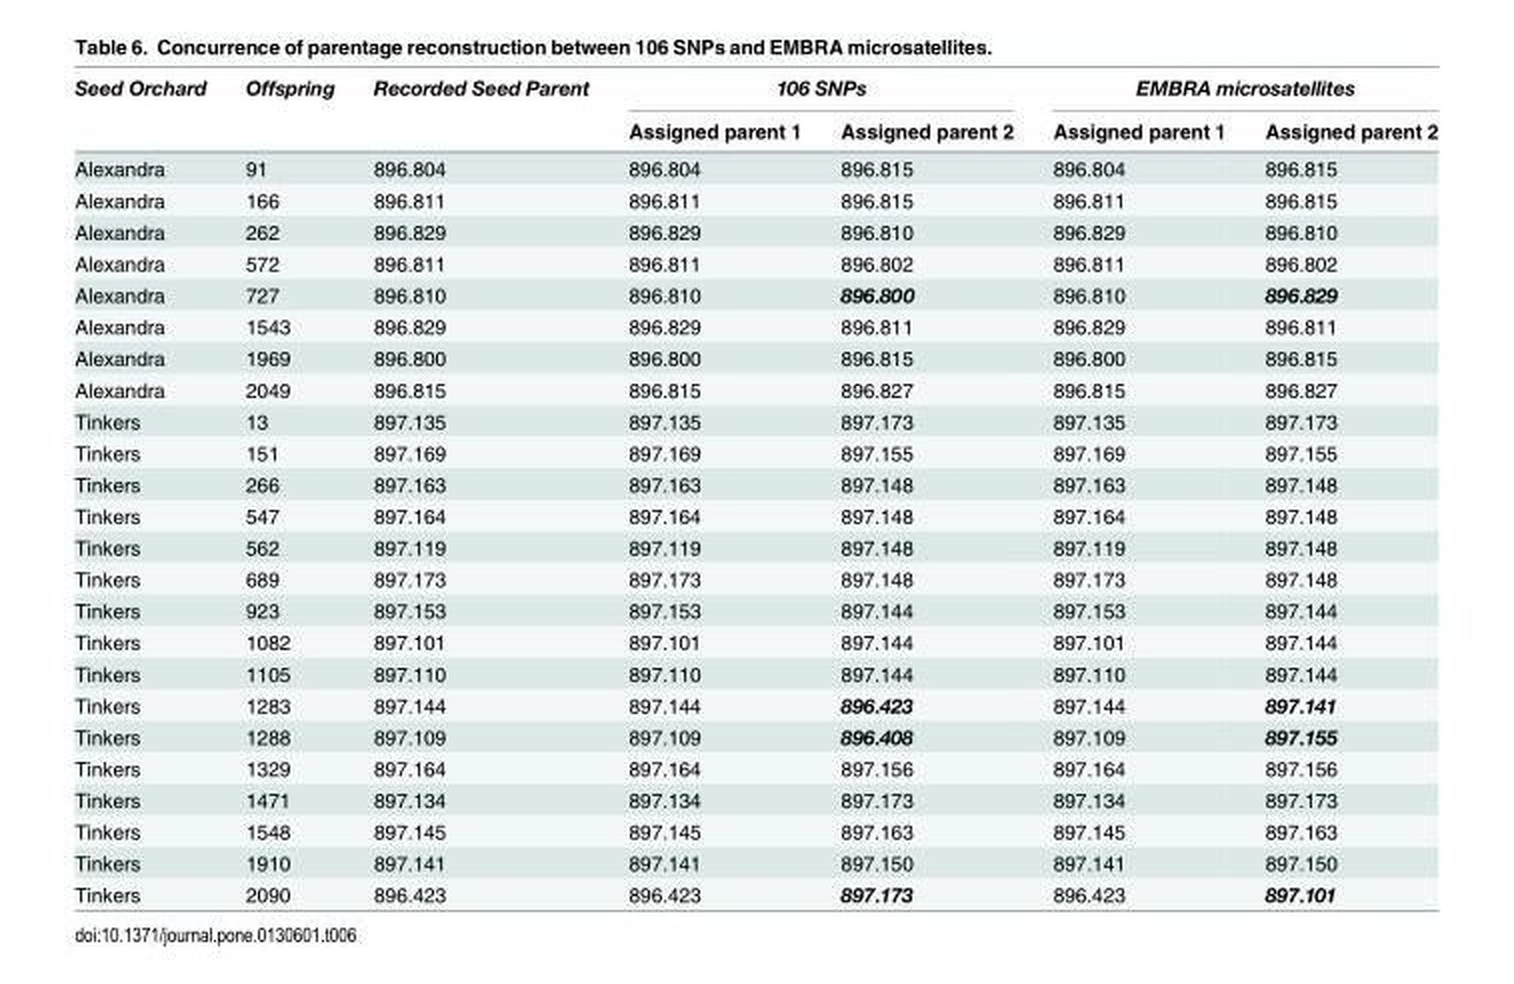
<table><thead><tr><td rowspan="2">Seed Orchard</td><td rowspan="2">Offspring</td><td rowspan="2">Recorded Seed Parent</td><td colspan="2">106 SNPs</td><td colspan="2">EMBRA microsatellites</td></tr><tr><td>Assigned parent 1</td><td>Assigned parent 2</td><td>Assigned parent 1</td><td>Assigned parent 2</td></tr></thead><tbody><tr><td>Alexandra</td><td>91</td><td>896.804</td><td>896.804</td><td>896.815</td><td>896.804</td><td>896.815</td></tr><tr><td>Alexandra</td><td>166</td><td>896.811</td><td>896.811</td><td>896.815</td><td>896.811</td><td>896.815</td></tr><tr><td>Alexandra</td><td>262</td><td>896.829</td><td>896.829</td><td>896.810</td><td>896.829</td><td>896.810</td></tr><tr><td>Alexandra</td><td>572</td><td>896.811</td><td>896.811</td><td>896.802</td><td>896.811</td><td>896.802</td></tr><tr><td>Alexandra</td><td>727</td><td>896.810</td><td>896.810</td><td>896.800</td><td>896.810</td><td>896.829</td></tr><tr><td>Alexandra</td><td>1543</td><td>896.829</td><td>896.829</td><td>896.811</td><td>896.829</td><td>896.811</td></tr><tr><td>Alexandra</td><td>1969</td><td>896.800</td><td>896.800</td><td>896.815</td><td>896.800</td><td>896.815</td></tr><tr><td>Alexandra</td><td>2049</td><td>896.815</td><td>896.815</td><td>896.827</td><td>896.815</td><td>896.827</td></tr><tr><td>Tinkers</td><td>13</td><td>897.135</td><td>897.135</td><td>897.173</td><td>897.135</td><td>897.173</td></tr><tr><td>Tinkers</td><td>151</td><td>897.169</td><td>897.169</td><td>897.155</td><td>897.169</td><td>897.155</td></tr><tr><td>Tinkers</td><td>266</td><td>897.163</td><td>897.163</td><td>897.148</td><td>897.163</td><td>897.148</td></tr><tr><td>Tinkers</td><td>547</td><td>897.164</td><td>897.164</td><td>897.148</td><td>897.164</td><td>897.148</td></tr><tr><td>Tinkers</td><td>562</td><td>897.119</td><td>897.119</td><td>897.148</td><td>897.119</td><td>897.148</td></tr><tr><td>Tinkers</td><td>689</td><td>897.173</td><td>897.173</td><td>897.148</td><td>897.173</td><td>897.148</td></tr><tr><td>Tinkers</td><td>923</td><td>897.153</td><td>897.153</td><td>897.144</td><td>897.153</td><td>897.144</td></tr><tr><td>Tinkers</td><td>1082</td><td>897.101</td><td>897.101</td><td>897.144</td><td>897.101</td><td>897.144</td></tr><tr><td>Tinkers</td><td>1105</td><td>897.110</td><td>897.110</td><td>897.144</td><td>897.110</td><td>897.144</td></tr><tr><td>Tinkers</td><td>1283</td><td>897.144</td><td>897.144</td><td>896.423</td><td>897.144</td><td>897.141</td></tr><tr><td>Tinkers</td><td>1288</td><td>897.109</td><td>897.109</td><td>896.408</td><td>897.109</td><td>897.155</td></tr><tr><td>Tinkers</td><td>1329</td><td>897.164</td><td>897.164</td><td>897.156</td><td>897.164</td><td>897.156</td></tr><tr><td>Tinkers</td><td>1471</td><td>897.134</td><td>897.134</td><td>897.173</td><td>897.134</td><td>897.173</td></tr><tr><td>Tinkers</td><td>1548</td><td>897.145</td><td>897.145</td><td>897.163</td><td>897.145</td><td>897.163</td></tr><tr><td>Tinkers</td><td>1910</td><td>897.141</td><td>897.141</td><td>897.150</td><td>897.141</td><td>897.150</td></tr><tr><td>Tinkers</td><td>2090</td><td>896.423</td><td>896.423</td><td>897.173</td><td>896.423</td><td>897.101</td></tr></tbody></table>